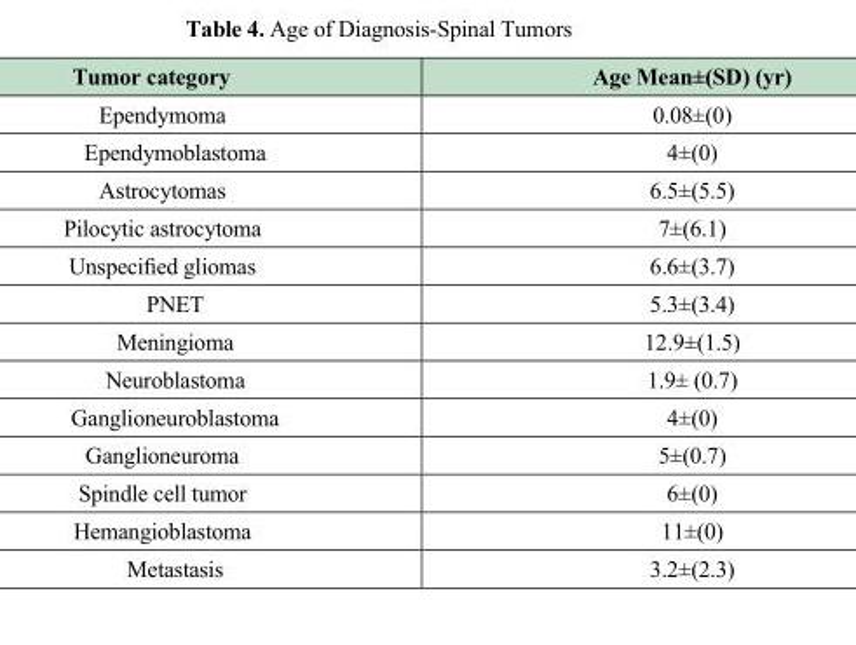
<table><thead><tr><td>Tumor category</td><td>Age Mean±(SD) (yr)</td></tr></thead><tbody><tr><td>Ependymoma</td><td>0.08±(0)</td></tr><tr><td>Ependymoblastoma</td><td>4±(0)</td></tr><tr><td>Astrocytomas</td><td>6.5±(5.5)</td></tr><tr><td>Pilocytic astrocytoma</td><td>7±(6.1)</td></tr><tr><td>Unspecified gliomas</td><td>6.6±(3.7)</td></tr><tr><td>PNET</td><td>5.3±(3.4)</td></tr><tr><td>Meningioma</td><td>12.9±(1.5)</td></tr><tr><td>Neuroblastoma</td><td>1.9± (0.7)</td></tr><tr><td>Ganglioneuroblastoma</td><td>4±(0)</td></tr><tr><td>Ganglioneuroma</td><td>5±(0.7)</td></tr><tr><td>Spindle cell tumor</td><td>6±(0)</td></tr><tr><td>Hemangioblastoma</td><td>11±(0)</td></tr><tr><td>Metastasis</td><td>3.2±(2.3)</td></tr></tbody></table>